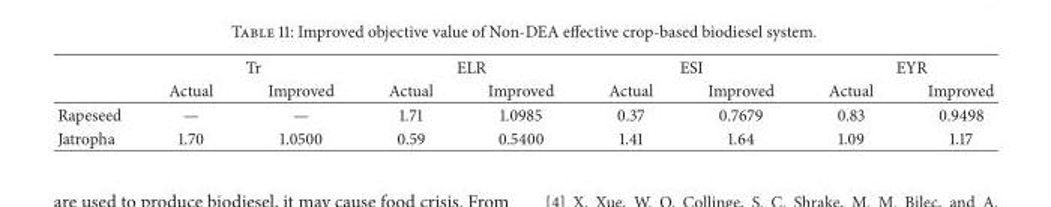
<table><thead><tr><td rowspan="2"></td><td colspan="2">Tr</td><td colspan="2">ELR</td><td colspan="2">ESI</td><td colspan="2">EYR</td></tr><tr><td>Actual</td><td>Improved</td><td>Actual</td><td>Improved</td><td>Actual</td><td>Improved</td><td>Actual</td><td>Improved</td></tr></thead><tbody><tr><td>Rapeseed</td><td>—</td><td>—</td><td>1.71</td><td>1.0985</td><td>0.37</td><td>0.7679</td><td>0.83</td><td>0.9498</td></tr><tr><td>Jatropha</td><td>1.70</td><td>1.0500</td><td>0.59</td><td>0.5400</td><td>1.41</td><td>1.64</td><td>1.09</td><td>1.17</td></tr></tbody></table>